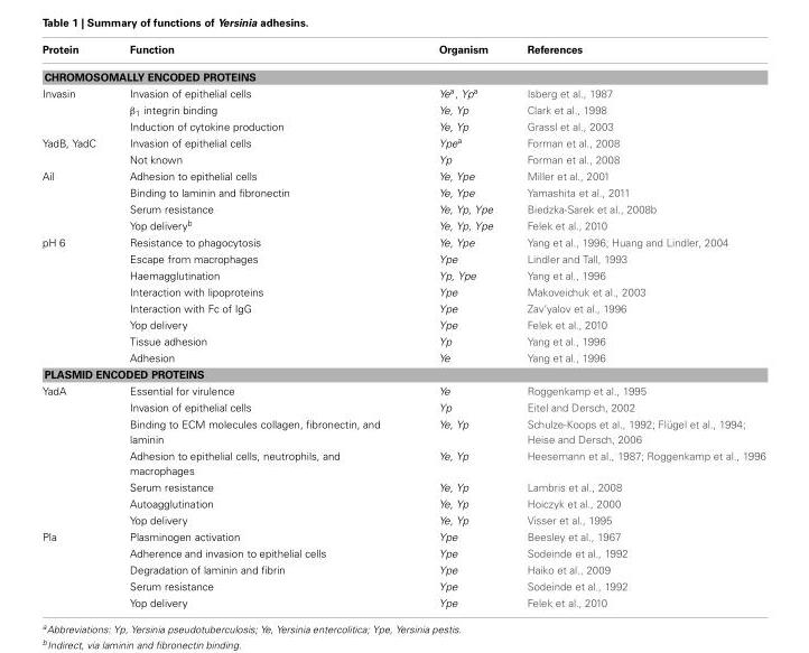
<table><thead><tr><td>Protein</td><td>Function</td><td>Organism</td><td>References</td></tr></thead><tbody><tr><td colspan="4">CHROMOSOMALLY ENCODED PROTEINS</td></tr><tr><td rowspan="3">Invasin</td><td>Invasion of epithelial cells</td><td>Ye<sup>a</sup>, Yp<sup>a</sup></td><td>Isberg et al., 1987</td></tr><tr><td>β<sub>1</sub> integrin binding</td><td>Ye, Yp</td><td>Clark et al., 1998</td></tr><tr><td>Induction of cytokine production</td><td>Ye, Yp</td><td>Grassl et al., 2003</td></tr><tr><td rowspan="2">YadB, YadC</td><td>Invasion of epithelial cells</td><td>Ype<sup>a</sup></td><td>Forman et al., 2008</td></tr><tr><td>Not known</td><td>Yp</td><td>Forman et al., 2008</td></tr><tr><td rowspan="4">Ail</td><td>Adhesion to epithelial cells</td><td>Ye, Ype</td><td>Miller et al., 2001</td></tr><tr><td>Binding to laminin and fibronectin</td><td>Ye, Ype</td><td>Yamashita et al., 2011</td></tr><tr><td>Serum resistance</td><td>Ye, Yp, Ype</td><td>Biedzka-Sarek et al., 2008b</td></tr><tr><td>Yop delivery<sup>b</sup></td><td>Ye, Yp, Ype</td><td>Felek et al., 2010</td></tr><tr><td rowspan="8">pH 6</td><td>Resistance to phagocytosis</td><td>Ye, Ype</td><td>Yang et al., 1996; Huang and Lindler, 2004</td></tr><tr><td>Escape from macrophages</td><td>Ype</td><td>Lindler and Tall, 1993</td></tr><tr><td>Haemagglutination</td><td>Yp, Ype</td><td>Yang et al., 1996</td></tr><tr><td>Interaction with lipoproteins</td><td>Ype</td><td>Makoveichuk et al., 2003</td></tr><tr><td>Interaction with Fc of IgG</td><td>Ype</td><td>Zav’yalov et al., 1996</td></tr><tr><td>Yop delivery</td><td>Ype</td><td>Felek et al., 2010</td></tr><tr><td>Tissue adhesion</td><td>Yp</td><td>Yang et al., 1996</td></tr><tr><td>Adhesion</td><td>Ye</td><td>Yang et al., 1996</td></tr><tr><td colspan="4">PLASMID ENCODED PROTEINS</td></tr><tr><td rowspan="7">YadA</td><td>Essential for virulence</td><td>Ye</td><td>Roggenkamp et al., 1995</td></tr><tr><td>Invasion of epithelial cells</td><td>Yp</td><td>Eitel and Dersch, 2002</td></tr><tr><td>Binding to ECM molecules collagen, fibronectin, and laminin</td><td>Ye, Yp</td><td>Schulze-Koops et al., 1992; Flügel et al., 1994; Heise and Dersch, 2006</td></tr><tr><td>Adhesion to epithelial cells, neutrophils, and macrophages</td><td>Ye, Yp</td><td>Heesemann et al., 1987; Roggenkamp et al., 1996</td></tr><tr><td>Serum resistance</td><td>Ye, Yp</td><td>Lambris et al., 2008</td></tr><tr><td>Autoagglutination</td><td>Ye, Yp</td><td>Hoiczyk et al., 2000</td></tr><tr><td>Yop delivery</td><td>Ye, Yp</td><td>Visser et al., 1995</td></tr><tr><td rowspan="5">Pla</td><td>Plasminogen activation</td><td>Ype</td><td>Beesley et al., 1967</td></tr><tr><td>Adherence and invasion to epithelial cells</td><td>Ype</td><td>Sodeinde et al., 1992</td></tr><tr><td>Degradation of laminin and fibrin</td><td>Ype</td><td>Haiko et al., 2009</td></tr><tr><td>Serum resistance</td><td>Ype</td><td>Sodeinde et al., 1992</td></tr><tr><td>Yop delivery</td><td>Ype</td><td>Felek et al., 2010</td></tr></tbody></table>